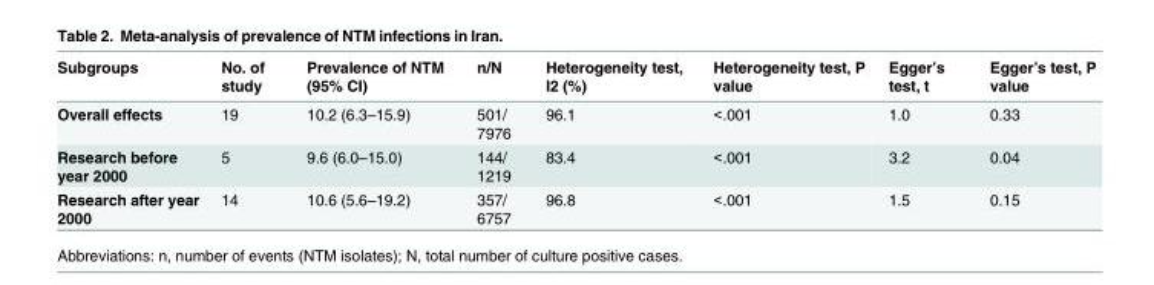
<table><thead><tr><td>Subgroups</td><td>No. of study</td><td>Prevalence of NTM (95% CI)</td><td>n/N</td><td>Heterogeneity test, I2 (%)</td><td>Heterogeneity test, P value</td><td>Egger’s test, t</td><td>Egger’s test, P value</td></tr></thead><tbody><tr><td>Overall effects</td><td>19</td><td>10.2 (6.3–15.9)</td><td>501/ 7976</td><td>96.1</td><td>&lt;.001</td><td>1.0</td><td>0.33</td></tr><tr><td>Research before year 2000</td><td>5</td><td>9.6 (6.0–15.0)</td><td>144/ 1219</td><td>83.4</td><td>&lt;.001</td><td>3.2</td><td>0.04</td></tr><tr><td>Research after year 2000</td><td>14</td><td>10.6 (5.6–19.2)</td><td>357/ 6757</td><td>96.8</td><td>&lt;.001</td><td>1.5</td><td>0.15</td></tr></tbody></table>